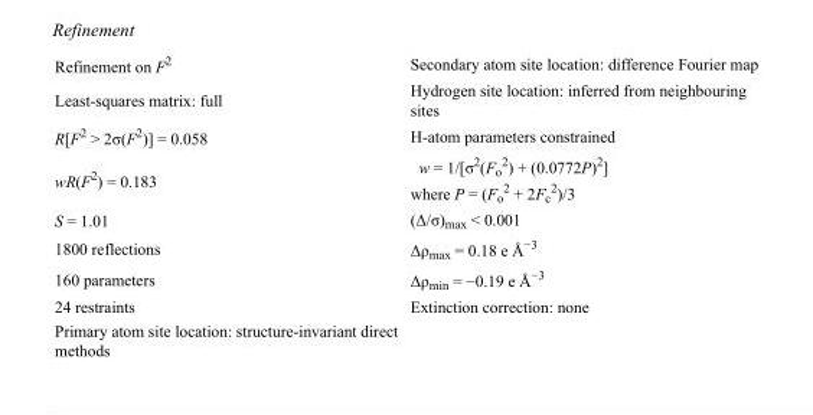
<table><tbody><tr><td>Refinement on F<sup>2</sup></td><td>Secondary atom site location: difference Fourier map</td></tr><tr><td>Least-squares matrix: full</td><td>Hydrogen site location: inferred from neighbouring sites</td></tr><tr><td>R[F<sup>2</sup> &gt; 2σ(F<sup>2</sup>)] = 0.058</td><td>H-atom parameters constrained</td></tr><tr><td>wR(F<sup>2</sup>) = 0.183</td><td>w = 1/[σ<sup>2</sup>(F<sub>o</sub> <sup>2</sup>) + (0.0772P)<sup>2</sup>] where P = (F<sub>o</sub> <sup>2</sup> + 2F<sub>c</sub> <sup>2</sup>)/3</td></tr><tr><td>S = 1.01</td><td>(Δ/σ)<sub>max</sub> &lt; 0.001</td></tr><tr><td>1800 reflections</td><td>Δρ<sub>max</sub> = 0.18 e Å<sup>−3</sup></td></tr><tr><td>160 parameters</td><td>Δρ<sub>min</sub> = −0.19 e Å<sup>−3</sup></td></tr><tr><td>24 restraints</td><td>Extinction correction: none</td></tr><tr><td>Primary atom site location: structure-invariant direct methods</td><td></td></tr></tbody></table>